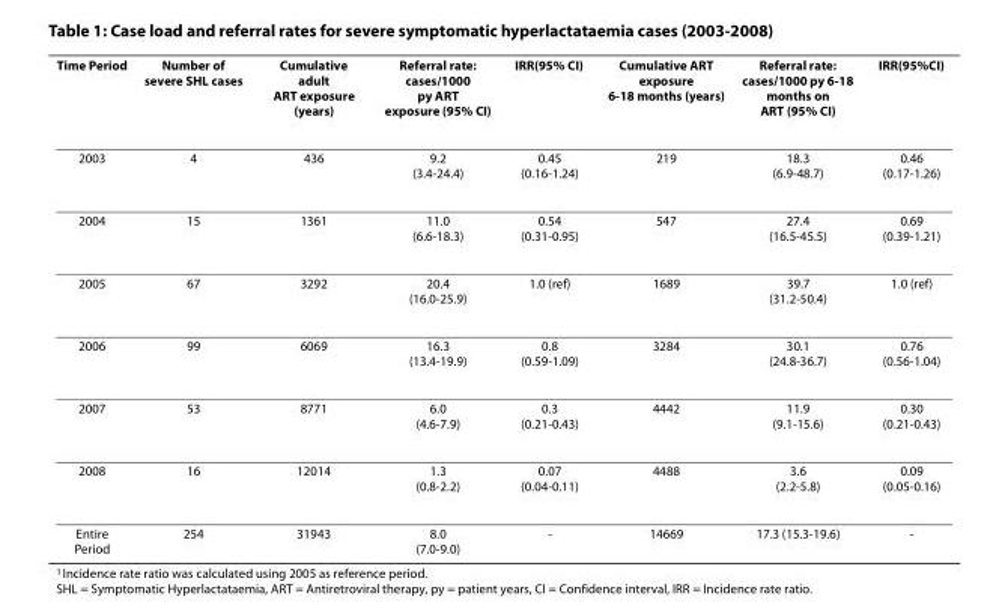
<table><thead><tr><td>Time Period</td><td>Number of severe SHL cases</td><td>Cumulative adult ART exposure (years)</td><td>Referral rate: cases/1000 py ART exposure (95% CI)</td><td>IRR(95% CI)</td><td>Cumulative ART exposure 6-18 months (years)</td><td>Referral rate: cases/1000 py 6-18 months on ART (95% CI)</td><td>IRR(95%CI)</td></tr></thead><tbody><tr><td>2003</td><td>4</td><td>436</td><td>9.2 (3.4-24.4)</td><td>0.45 (0.16-1.24)</td><td>219</td><td>18.3 (6.9-48.7)</td><td>0.46 (0.17-1.26)</td></tr><tr><td>2004</td><td>15</td><td>1361</td><td>11.0 (6.6-18.3)</td><td>0.54 (0.31-0.95)</td><td>547</td><td>27.4 (16.5-45.5)</td><td>0.69 (0.39-1.21)</td></tr><tr><td>2005</td><td>67</td><td>3292</td><td>20.4 (16.0-25.9)</td><td>1.0 (ref)</td><td>1689</td><td>39.7 (31.2-50.4)</td><td>1.0 (ref)</td></tr><tr><td>2006</td><td>99</td><td>6069</td><td>16.3 (13.4-19.9)</td><td>0.8 (0.59-1.09)</td><td>3284</td><td>30.1 (24.8-36.7)</td><td>0.76 (0.56-1.04)</td></tr><tr><td>2007</td><td>53</td><td>8771</td><td>6.0 (4.6-7.9)</td><td>0.3 (0.21-0.43)</td><td>4442</td><td>11.9 (9.1-15.6)</td><td>0.30 (0.21-0.43)</td></tr><tr><td>2008</td><td>16</td><td>12014</td><td>1.3 (0.8-2.2)</td><td>0.07 (0.04-0.11)</td><td>4488</td><td>3.6 (2.2-5.8)</td><td>0.09 (0.05-0.16)</td></tr><tr><td>Entire Period</td><td>254</td><td>31943</td><td>8.0 (7.0-9.0)</td><td>-</td><td>14669</td><td>17.3 (15.3-19.6)</td><td>-</td></tr></tbody></table>